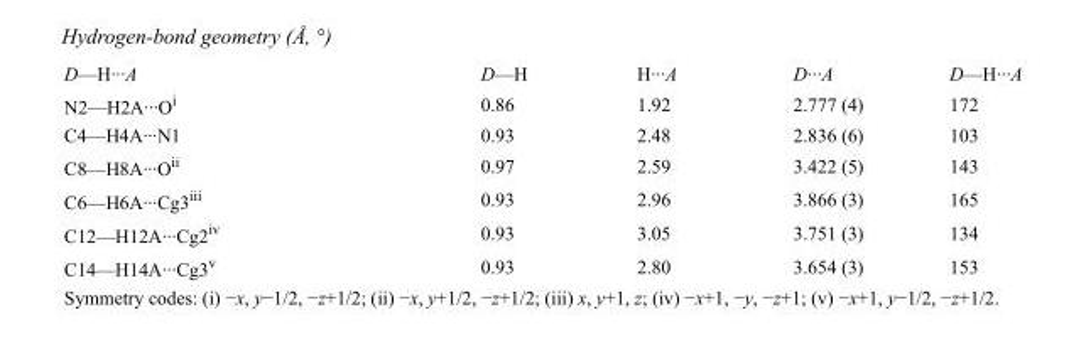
<table><tbody><tr><td>D—H···A</td><td>D—H</td><td>H···A</td><td>D···A</td><td>D—H···A</td></tr><tr><td>N2—H2A···O<sup>i</sup></td><td>0.86</td><td>1.92</td><td>2.777 (4)</td><td>172</td></tr><tr><td>C4—H4A···N1</td><td>0.93</td><td>2.48</td><td>2.836 (6)</td><td>103</td></tr><tr><td>C8—H8A···O<sup>ii</sup></td><td>0.97</td><td>2.59</td><td>3.422 (5)</td><td>143</td></tr><tr><td>C6—H6A···Cg3<sup>iii</sup></td><td>0.93</td><td>2.96</td><td>3.866 (3)</td><td>165</td></tr><tr><td>C12—H12A···Cg2<sup>iv</sup></td><td>0.93</td><td>3.05</td><td>3.751 (3)</td><td>134</td></tr><tr><td>C14—H14A···Cg3<sup>v</sup></td><td>0.93</td><td>2.80</td><td>3.654 (3)</td><td>153</td></tr></tbody></table>